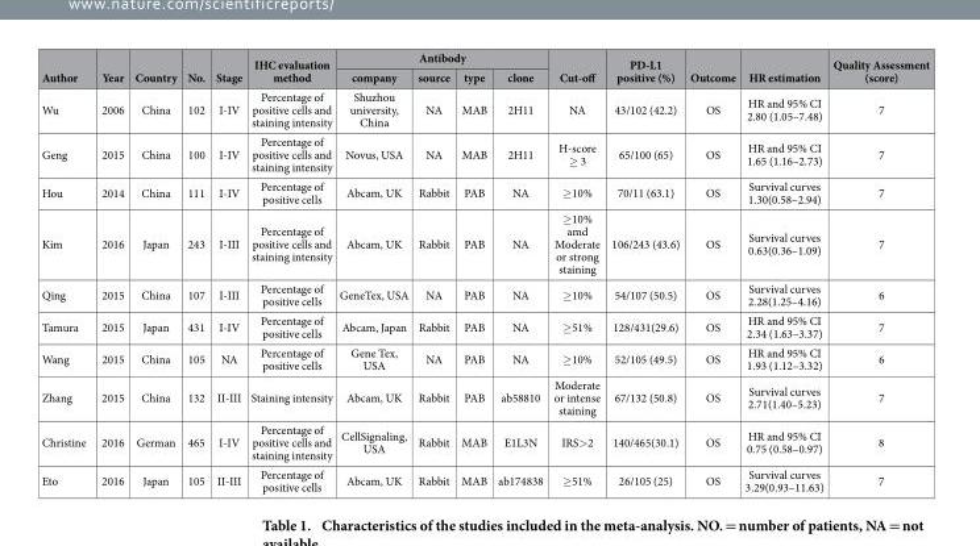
<table><thead><tr><td rowspan="2">Author</td><td rowspan="2">Year</td><td rowspan="2">Country</td><td rowspan="2">No.</td><td rowspan="2">Stage</td><td rowspan="2">IHC evaluation method</td><td colspan="4">Antibody</td><td rowspan="2">Cut-off</td><td rowspan="2">PD-L1 positive (%)</td><td rowspan="2">Outcome</td><td rowspan="2">HR estimation</td><td rowspan="2">Quality Assessment (score)</td></tr><tr><td>company</td><td>source</td><td>type</td><td>clone</td></tr></thead><tbody><tr><td>Wu</td><td>2006</td><td>China</td><td>102</td><td>I-IV</td><td>Percentage of positive cells and staining intensity</td><td>Shuzhou university, China</td><td>NA</td><td>MAB</td><td>2H11</td><td>NA</td><td>43/102 (42.2)</td><td>OS</td><td>HR and 95% CI 2.80 (1.05–7.48)</td><td>7</td></tr><tr><td>Geng</td><td>2015</td><td>China</td><td>100</td><td>I-IV</td><td>Percentage of positive cells and staining intensity</td><td>Novus, USA</td><td>NA</td><td>MAB</td><td>2H11</td><td>H-score ≥ 3</td><td>65/100 (65)</td><td>OS</td><td>HR and 95% CI 1.65 (1.16–2.73)</td><td>7</td></tr><tr><td>Hou</td><td>2014</td><td>China</td><td>111</td><td>I-IV</td><td>Percentage of positive cells</td><td>Abcam, UK</td><td>Rabbit</td><td>PAB</td><td>NA</td><td>≥ 10%</td><td>70/11 (63.1)</td><td>OS</td><td>Survival curves 1.30(0.58–2.94)</td><td>7</td></tr><tr><td>Kim</td><td>2016</td><td>Japan</td><td>243</td><td>I-III</td><td>Percentage of positive cells and staining intensity</td><td>Abcam, UK</td><td>Rabbit</td><td>PAB</td><td>NA</td><td>≥ 10% amd Moderate or strong staining</td><td>106/243 (43.6)</td><td>OS</td><td>Survival curves 0.63(0.36–1.09)</td><td>7</td></tr><tr><td>Qing</td><td>2015</td><td>China</td><td>107</td><td>I-III</td><td>Percentage of positive cells</td><td>GeneTex, USA</td><td>NA</td><td>PAB</td><td>NA</td><td>≥ 10%</td><td>54/107 (50.5)</td><td>OS</td><td>Survival curves 2.28(1.25–4.16)</td><td>6</td></tr><tr><td>Tamura</td><td>2015</td><td>Japan</td><td>431</td><td>I-IV</td><td>Percentage of positive cells</td><td>Abcam, Japan</td><td>Rabbit</td><td>PAB</td><td>NA</td><td>≥ 51%</td><td>128/431(29.6)</td><td>OS</td><td>HR and 95% CI 2.34 (1.63–3.37)</td><td>7</td></tr><tr><td>Wang</td><td>2015</td><td>China</td><td>105</td><td>NA</td><td>Percentage of positive cells</td><td>Gene Tex, USA</td><td>NA</td><td>PAB</td><td>NA</td><td>≥ 10%</td><td>52/105 (49.5)</td><td>OS</td><td>HR and 95% CI 1.93 (1.12–3.32)</td><td>6</td></tr><tr><td>Zhang</td><td>2015</td><td>China</td><td>132</td><td>II-III</td><td>Staining intensity</td><td>Abcam, UK</td><td>Rabbit</td><td>PAB</td><td>ab58810</td><td>Moderate or intense staining</td><td>67/132 (50.8)</td><td>OS</td><td>Survival curves 2.71(1.40–5.23)</td><td>7</td></tr><tr><td>Christine</td><td>2016</td><td>German</td><td>465</td><td>I-IV</td><td>Percentage of positive cells and staining intensity</td><td>CellSignaling, USA</td><td>Rabbit</td><td>MAB</td><td>E1L3N</td><td>IRS&gt; 2</td><td>140/465(30.1)</td><td>OS</td><td>HR and 95% CI 0.75 (0.58–0.97)</td><td>8</td></tr><tr><td>Eto</td><td>2016</td><td>Japan</td><td>105</td><td>II-III</td><td>Percentage of positive cells</td><td>Abcam, UK</td><td>Rabbit</td><td>MAB</td><td>ab174838</td><td>≥ 51%</td><td>26/105 (25)</td><td>OS</td><td>Survival curves 3.29(0.93–11.63)</td><td>7</td></tr></tbody></table>